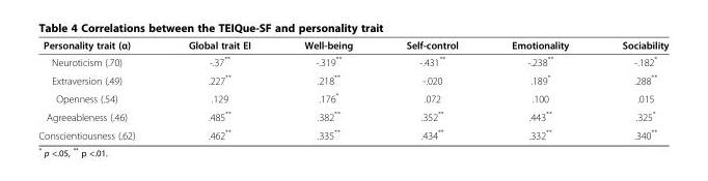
<table><thead><tr><td>Personality trait (α)</td><td>Global trait EI</td><td>Well-being</td><td>Self-control</td><td>Emotionality</td><td>Sociability</td></tr></thead><tbody><tr><td>Neuroticism (.70)</td><td>-.37**</td><td>-.319**</td><td>-.431**</td><td>-.238**</td><td>-.182*</td></tr><tr><td>Extraversion (.49)</td><td>.227**</td><td>.218**</td><td>-.020</td><td>.189*</td><td>.288**</td></tr><tr><td>Openness (.54)</td><td>.129</td><td>.176*</td><td>.072</td><td>.100</td><td>.015</td></tr><tr><td>Agreeableness (.46)</td><td>.485**</td><td>.382**</td><td>.352**</td><td>.443**</td><td>.325*</td></tr><tr><td>Conscientiousness (.62)</td><td>.462**</td><td>.335**</td><td>.434**</td><td>.332**</td><td>.340**</td></tr></tbody></table>